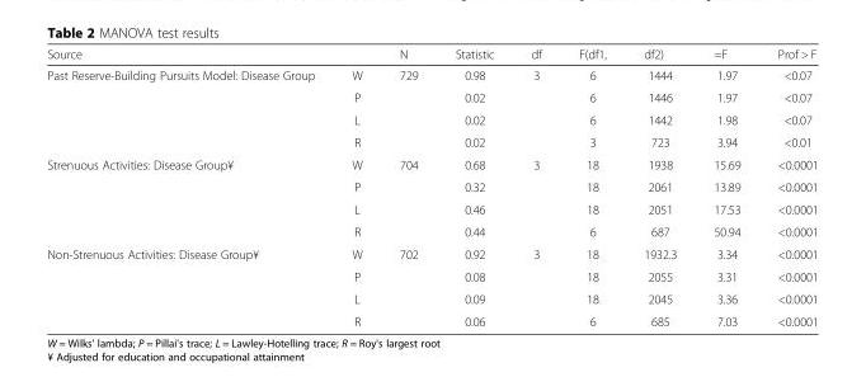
<table><thead><tr><td>Source</td><td></td><td>N</td><td>Statistic</td><td>df</td><td>F(df1,</td><td>df2)</td><td>=F</td><td>Prof &gt; F</td></tr></thead><tbody><tr><td rowspan="4">Past Reserve-Building Pursuits Model: Disease Group</td><td>W</td><td rowspan="4">729</td><td>0.98</td><td rowspan="4">3</td><td>6</td><td>1444</td><td>1.97</td><td>&lt;0.07</td></tr><tr><td>P</td><td>0.02</td><td>6</td><td>1446</td><td>1.97</td><td>&lt;0.07</td></tr><tr><td>L</td><td>0.02</td><td>6</td><td>1442</td><td>1.98</td><td>&lt;0.07</td></tr><tr><td>R</td><td>0.02</td><td>3</td><td>723</td><td>3.94</td><td>&lt;0.01</td></tr><tr><td rowspan="4">Strenuous Activities: Disease Group¥</td><td>W</td><td rowspan="4">704</td><td>0.68</td><td rowspan="4">3</td><td>18</td><td>1938</td><td>15.69</td><td>&lt;0.0001</td></tr><tr><td>P</td><td>0.32</td><td>18</td><td>2061</td><td>13.89</td><td>&lt;0.0001</td></tr><tr><td>L</td><td>0.46</td><td>18</td><td>2051</td><td>17.53</td><td>&lt;0.0001</td></tr><tr><td>R</td><td>0.44</td><td>6</td><td>687</td><td>50.94</td><td>&lt;0.0001</td></tr><tr><td rowspan="4">Non-Strenuous Activities: Disease Group¥</td><td>W</td><td rowspan="4">702</td><td>0.92</td><td rowspan="4">3</td><td>18</td><td>1932.3</td><td>3.34</td><td>&lt;0.0001</td></tr><tr><td>P</td><td>0.08</td><td>18</td><td>2055</td><td>3.31</td><td>&lt;0.0001</td></tr><tr><td>L</td><td>0.09</td><td>18</td><td>2045</td><td>3.36</td><td>&lt;0.0001</td></tr><tr><td>R</td><td>0.06</td><td>6</td><td>685</td><td>7.03</td><td>&lt;0.0001</td></tr></tbody></table>